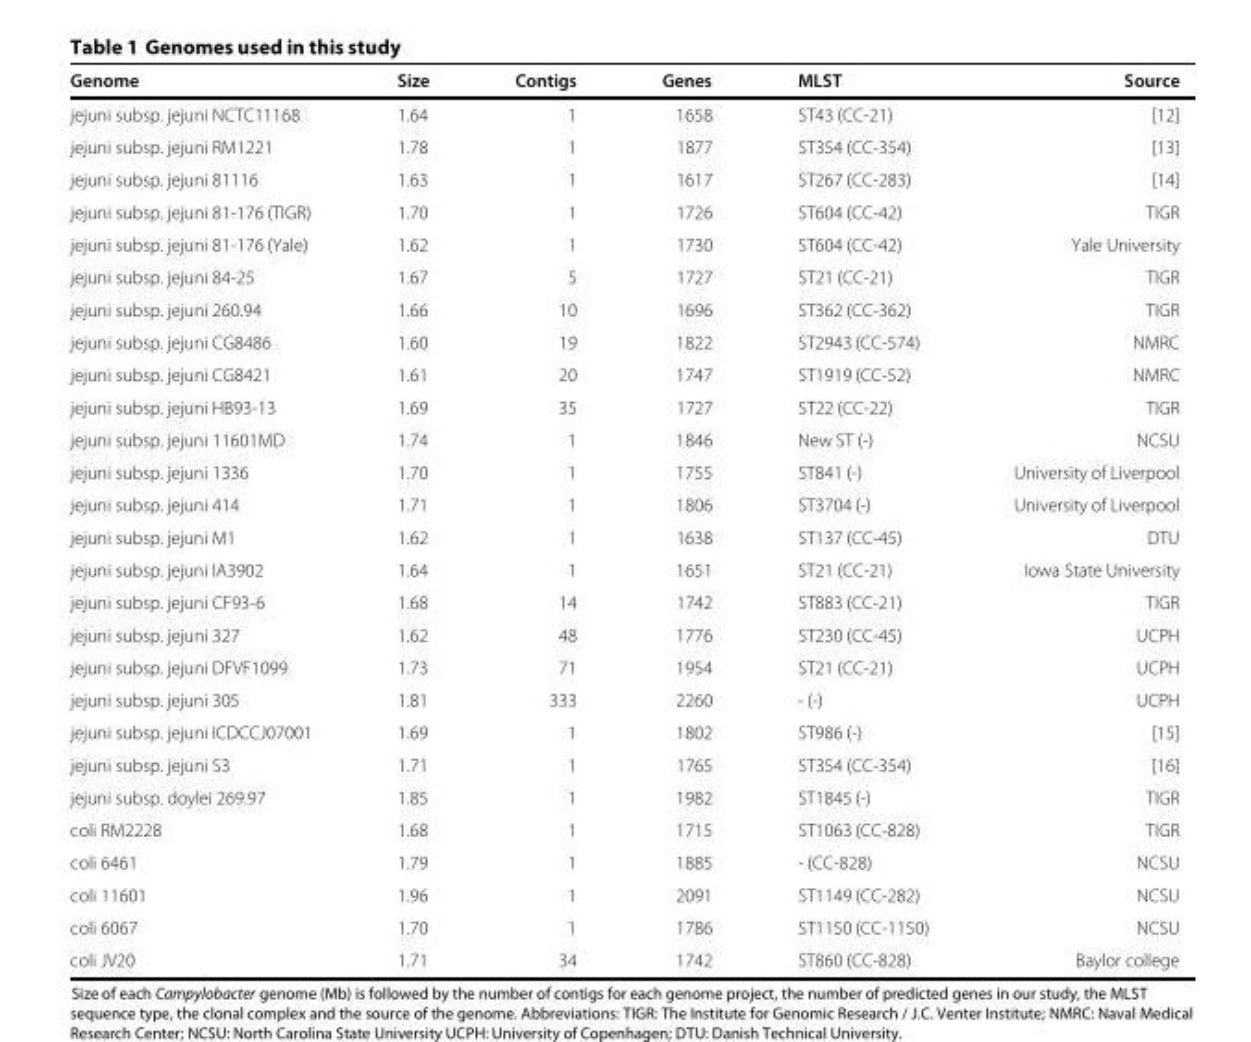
<table><thead><tr><td>Genome</td><td>Size</td><td>Contigs</td><td>Genes</td><td>MLST</td><td>Source</td></tr></thead><tbody><tr><td>jejuni subsp. jejuni NCTC11168</td><td>1.64</td><td>1</td><td>1658</td><td>ST43 (CC-21)</td><td>[12]</td></tr><tr><td>jejuni subsp. jejuni RM1221</td><td>1.78</td><td>1</td><td>1877</td><td>ST354 (CC-354)</td><td>[13]</td></tr><tr><td>jejuni subsp. jejuni 81116</td><td>1.63</td><td>1</td><td>1617</td><td>ST267 (CC-283)</td><td>[14]</td></tr><tr><td>jejuni subsp. jejuni 81-176 (TIGR)</td><td>1.70</td><td>1</td><td>1726</td><td>ST604 (CC-42)</td><td>TIGR</td></tr><tr><td>jejuni subsp. jejuni 81-176 (Yale)</td><td>1.62</td><td>1</td><td>1730</td><td>ST604 (CC-42)</td><td>Yale University</td></tr><tr><td>jejuni subsp. jejuni 84-25</td><td>1.67</td><td>5</td><td>1727</td><td>ST21 (CC-21)</td><td>TIGR</td></tr><tr><td>jejuni subsp. jejuni 260.94</td><td>1.66</td><td>10</td><td>1696</td><td>ST362 (CC-362)</td><td>TIGR</td></tr><tr><td>jejuni subsp. jejuni CG8486</td><td>1.60</td><td>19</td><td>1822</td><td>ST2943 (CC-574)</td><td>NMRC</td></tr><tr><td>jejuni subsp. jejuni CG8421</td><td>1.61</td><td>20</td><td>1747</td><td>ST1919 (CC-52)</td><td>NMRC</td></tr><tr><td>jejuni subsp. jejuni HB93-13</td><td>1.69</td><td>35</td><td>1727</td><td>ST22 (CC-22)</td><td>TIGR</td></tr><tr><td>jejuni subsp. jejuni 11601MD</td><td>1.74</td><td>1</td><td>1846</td><td>New ST (-)</td><td>NCSU</td></tr><tr><td>jejuni subsp. jejuni 1336</td><td>1.70</td><td>1</td><td>1755</td><td>ST841 (-)</td><td>University of Liverpool</td></tr><tr><td>jejuni subsp. jejuni 414</td><td>1.71</td><td>1</td><td>1806</td><td>ST3704 (-)</td><td>University of Liverpool</td></tr><tr><td>jejuni subsp. jejuni M1</td><td>1.62</td><td>1</td><td>1638</td><td>ST137 (CC-45)</td><td>DTU</td></tr><tr><td>jejuni subsp. jejuni IA3902</td><td>1.64</td><td>1</td><td>1651</td><td>ST21 (CC-21)</td><td>Iowa State University</td></tr><tr><td>jejuni subsp. jejuni CF93-6</td><td>1.68</td><td>14</td><td>1742</td><td>ST883 (CC-21)</td><td>TIGR</td></tr><tr><td>jejuni subsp. jejuni 327</td><td>1.62</td><td>48</td><td>1776</td><td>ST230 (CC-45)</td><td>UCPH</td></tr><tr><td>jejuni subsp. jejuni DFVF1099</td><td>1.73</td><td>71</td><td>1954</td><td>ST21 (CC-21)</td><td>UCPH</td></tr><tr><td>jejuni subsp. jejuni 305</td><td>1.81</td><td>333</td><td>2260</td><td>- (-)</td><td>UCPH</td></tr><tr><td>jejuni subsp. jejuni ICDCCJ07001</td><td>1.69</td><td>1</td><td>1802</td><td>ST986 (-)</td><td>[15]</td></tr><tr><td>jejuni subsp. jejuni S3</td><td>1.71</td><td>1</td><td>1765</td><td>ST354 (CC-354)</td><td>[16]</td></tr><tr><td>jejuni subsp. doylei 269.97</td><td>1.85</td><td>1</td><td>1982</td><td>ST1845 (-)</td><td>TIGR</td></tr><tr><td>coli RM2228</td><td>1.68</td><td>1</td><td>1715</td><td>ST1063 (CC-828)</td><td>TIGR</td></tr><tr><td>coli 6461</td><td>1.79</td><td>1</td><td>1885</td><td>- (CC-828)</td><td>NCSU</td></tr><tr><td>coli 11601</td><td>1.96</td><td>1</td><td>2091</td><td>ST1149 (CC-282)</td><td>NCSU</td></tr><tr><td>coli 6067</td><td>1.70</td><td>1</td><td>1786</td><td>ST1150 (CC-1150)</td><td>NCSU</td></tr><tr><td>coli JV20</td><td>1.71</td><td>34</td><td>1742</td><td>ST860 (CC-828)</td><td>Baylor college</td></tr></tbody></table>